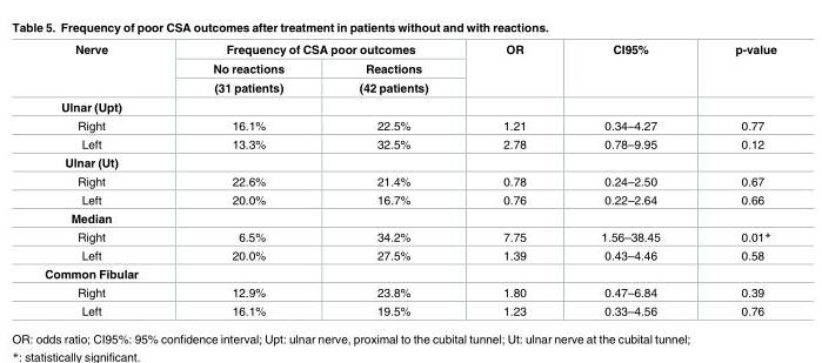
<table><thead><tr><td rowspan="3">Nerve</td><td colspan="2">Frequency of CSA poor outcomes</td><td rowspan="3">OR</td><td rowspan="3">CI95%</td><td rowspan="3">p-value</td></tr><tr><td rowspan="2">No reactions (31 patients)</td><td rowspan="2">Reactions (42 patients)</td></tr><tr></tr></thead><tbody><tr><td colspan="6">Ulnar (Upt)</td></tr><tr><td>Right</td><td>16.1%</td><td>22.5%</td><td>1.21</td><td>0.34–4.27</td><td>0.77</td></tr><tr><td>Left</td><td>13.3%</td><td>32.5%</td><td>2.78</td><td>0.78–9.95</td><td>0.12</td></tr><tr><td colspan="6">Ulnar (Ut)</td></tr><tr><td>Right</td><td>22.6%</td><td>21.4%</td><td>0.78</td><td>0.24–2.50</td><td>0.67</td></tr><tr><td>Left</td><td>20.0%</td><td>16.7%</td><td>0.76</td><td>0.22–2.64</td><td>0.66</td></tr><tr><td colspan="6">Median</td></tr><tr><td>Right</td><td>6.5%</td><td>34.2%</td><td>7.75</td><td>1.56–38.45</td><td>0.01*</td></tr><tr><td>Left</td><td>20.0%</td><td>27.5%</td><td>1.39</td><td>0.43–4.46</td><td>0.58</td></tr><tr><td colspan="6">Common Fibular</td></tr><tr><td>Right</td><td>12.9%</td><td>23.8%</td><td>1.80</td><td>0.47–6.84</td><td>0.39</td></tr><tr><td>Left</td><td>16.1%</td><td>19.5%</td><td>1.23</td><td>0.33–4.56</td><td>0.76</td></tr></tbody></table>